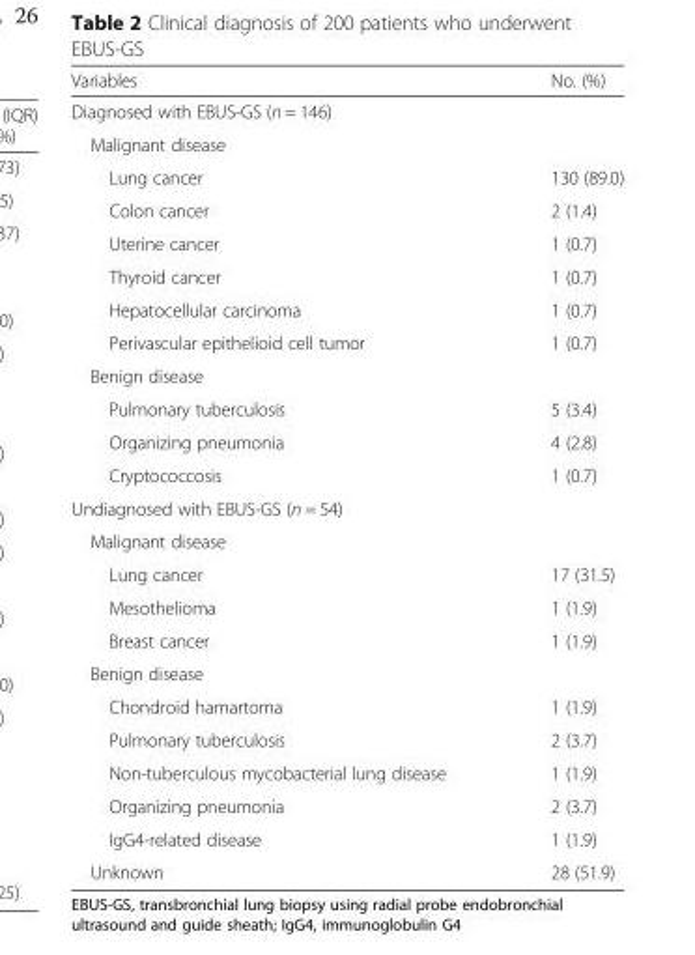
<table><thead><tr><td>Variables</td><td>No. (%)</td></tr></thead><tbody><tr><td colspan="2">Diagnosed with EBUS-GS (n = 146)</td></tr><tr><td colspan="2">Malignant disease</td></tr><tr><td>Lung cancer</td><td>130 (89.0)</td></tr><tr><td>Colon cancer</td><td>2 (1.4)</td></tr><tr><td>Uterine cancer</td><td>1 (0.7)</td></tr><tr><td>Thyroid cancer</td><td>1 (0.7)</td></tr><tr><td>Hepatocellular carcinoma</td><td>1 (0.7)</td></tr><tr><td>Perivascular epithelioid cell tumor</td><td>1 (0.7)</td></tr><tr><td colspan="2">Benign disease</td></tr><tr><td>Pulmonary tuberculosis</td><td>5 (3.4)</td></tr><tr><td>Organizing pneumonia</td><td>4 (2.8)</td></tr><tr><td>Cryptococcosis</td><td>1 (0.7)</td></tr><tr><td colspan="2">Undiagnosed with EBUS-GS (n = 54)</td></tr><tr><td colspan="2">Malignant disease</td></tr><tr><td>Lung cancer</td><td>17 (31.5)</td></tr><tr><td>Mesothelioma</td><td>1 (1.9)</td></tr><tr><td>Breast cancer</td><td>1 (1.9)</td></tr><tr><td colspan="2">Benign disease</td></tr><tr><td>Chondroid hamartoma</td><td>1 (1.9)</td></tr><tr><td>Pulmonary tuberculosis</td><td>2 (3.7)</td></tr><tr><td>Non-tuberculous mycobacterial lung disease</td><td>1 (1.9)</td></tr><tr><td>Organizing pneumonia</td><td>2 (3.7)</td></tr><tr><td>IgG4-related disease</td><td>1 (1.9)</td></tr><tr><td>Unknown</td><td>28 (51.9)</td></tr></tbody></table>